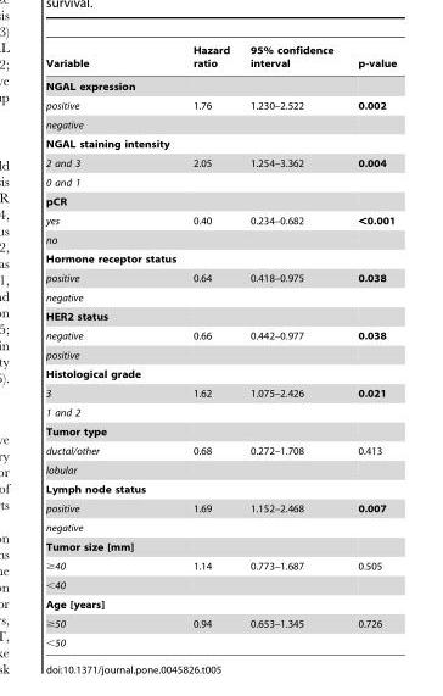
<table><thead><tr><td>Variable</td><td>Hazard ratio</td><td>95% confidence interval</td><td>p-value</td></tr></thead><tbody><tr><td colspan="4">NGAL expression</td></tr><tr><td>positive</td><td>1.76</td><td>1.230–2.522</td><td>0.002</td></tr><tr><td colspan="4">negative</td></tr><tr><td colspan="4">NGAL staining intensity</td></tr><tr><td>2 and 3</td><td>2.05</td><td>1.254–3.362</td><td>0.004</td></tr><tr><td colspan="4">0 and 1</td></tr><tr><td colspan="4">pCR</td></tr><tr><td>yes</td><td>0.40</td><td>0.234–0.682</td><td>&lt;0.001</td></tr><tr><td colspan="4">no</td></tr><tr><td colspan="4">Hormone receptor status</td></tr><tr><td>positive</td><td>0.64</td><td>0.418–0.975</td><td>0.038</td></tr><tr><td colspan="4">negative</td></tr><tr><td colspan="4">HER2 status</td></tr><tr><td>negative</td><td>0.66</td><td>0.442–0.977</td><td>0.038</td></tr><tr><td colspan="4">positive</td></tr><tr><td colspan="4">Histological grade</td></tr><tr><td>3</td><td>1.62</td><td>1.075–2.426</td><td>0.021</td></tr><tr><td colspan="4">1 and 2</td></tr><tr><td colspan="4">Tumor type</td></tr><tr><td>ductal/other</td><td>0.68</td><td>0.272–1.708</td><td>0.413</td></tr><tr><td colspan="4">lobular</td></tr><tr><td colspan="4">Lymph node status</td></tr><tr><td>positive</td><td>1.69</td><td>1.152–2.468</td><td>0.007</td></tr><tr><td colspan="4">negative</td></tr><tr><td colspan="4">Tumor size [mm]</td></tr><tr><td>≥40</td><td>1.14</td><td>0.773–1.687</td><td>0.505</td></tr><tr><td colspan="4">&lt;40</td></tr><tr><td colspan="4">Age [years]</td></tr><tr><td>≥50</td><td>0.94</td><td>0.653–1.345</td><td>0.726</td></tr><tr><td>&lt;50</td><td></td><td></td><td></td></tr></tbody></table>